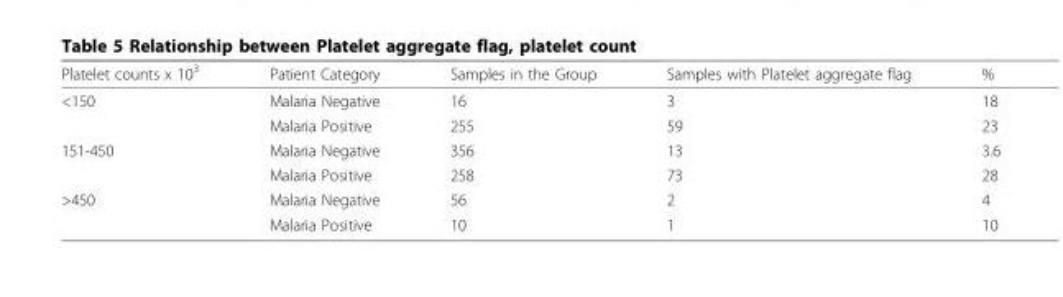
<table><thead><tr><td>Platelet counts x 10<sup>3</sup></td><td>Patient Category</td><td>Samples in the Group</td><td>Samples with Platelet aggregate flag</td><td>%</td></tr></thead><tbody><tr><td rowspan="2">&lt;150</td><td>Malaria Negative</td><td>16</td><td>3</td><td>18</td></tr><tr><td>Malaria Positive</td><td>255</td><td>59</td><td>23</td></tr><tr><td rowspan="2">151-450</td><td>Malaria Negative</td><td>356</td><td>13</td><td>3.6</td></tr><tr><td>Malaria Positive</td><td>258</td><td>73</td><td>28</td></tr><tr><td rowspan="2">&gt;450</td><td>Malaria Negative</td><td>56</td><td>2</td><td>4</td></tr><tr><td>Malaria Positive</td><td>10</td><td>1</td><td>10</td></tr></tbody></table>